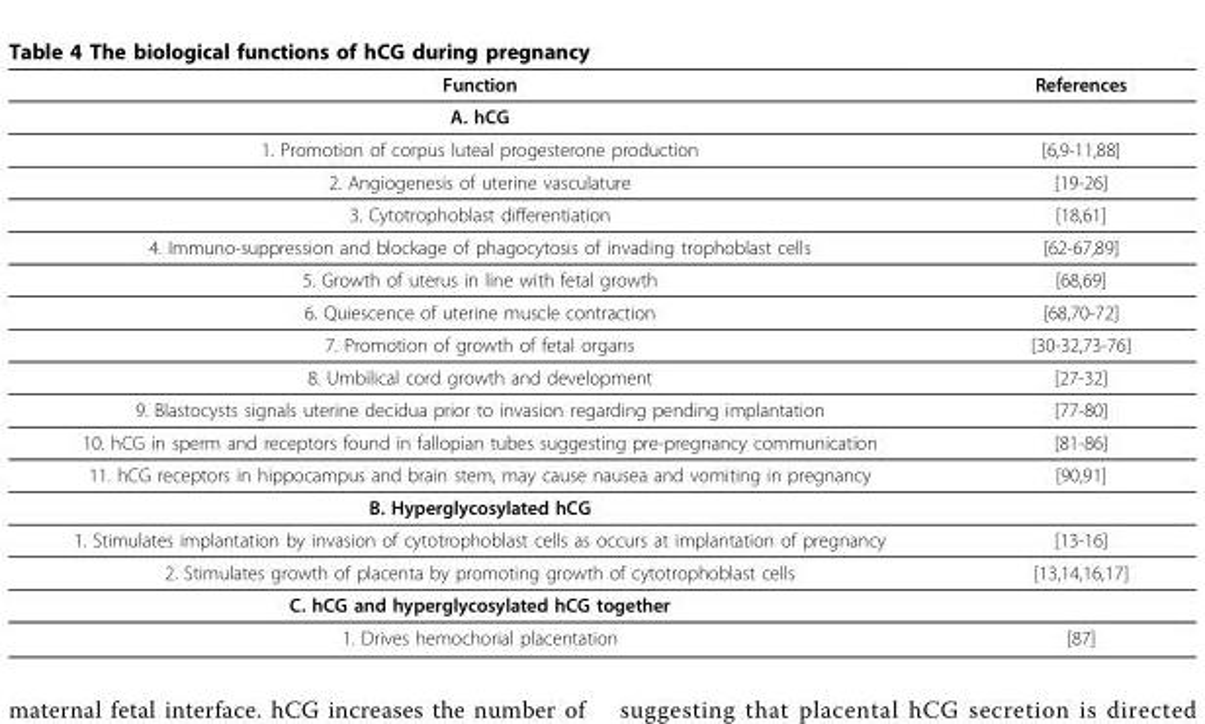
<table><thead><tr><td>Function</td><td>References</td></tr></thead><tbody><tr><td colspan="2">A. hCG</td></tr><tr><td>1. Promotion of corpus luteal progesterone production</td><td>[6,9-11,88]</td></tr><tr><td>2. Angiogenesis of uterine vasculature</td><td>[19-26]</td></tr><tr><td>3. Cytotrophoblast differentiation</td><td>[18,61]</td></tr><tr><td>4. Immuno-suppression and blockage of phagocytosis of invading trophoblast cells</td><td>[62-67,89]</td></tr><tr><td>5. Growth of uterus in line with fetal growth</td><td>[68,69]</td></tr><tr><td>6. Quiescence of uterine muscle contraction</td><td>[68,70-72]</td></tr><tr><td>7. Promotion of growth of fetal organs</td><td>[30-32,73-76]</td></tr><tr><td>8. Umbilical cord growth and development</td><td>[27-32]</td></tr><tr><td>9. Blastocysts signals uterine decidua prior to invasion regarding pending implantation</td><td>[77-80]</td></tr><tr><td>10. hCG in sperm and receptors found in fallopian tubes suggesting pre-pregnancy communication</td><td>[81-86]</td></tr><tr><td>11. hCG receptors in hippocampus and brain stem, may cause nausea and vomiting in pregnancy</td><td>[90,91]</td></tr><tr><td colspan="2">B. Hyperglycosylated hCG</td></tr><tr><td>1. Stimulates implantation by invasion of cytotrophoblast cells as occurs at implantation of pregnancy</td><td>[13-16]</td></tr><tr><td>2. Stimulates growth of placenta by promoting growth of cytotrophoblast cells</td><td>[13,14,16,17]</td></tr><tr><td colspan="2">C. hCG and hyperglycosylated hCG together</td></tr><tr><td>1. Drives hemochorial placentation</td><td>[87]</td></tr></tbody></table>